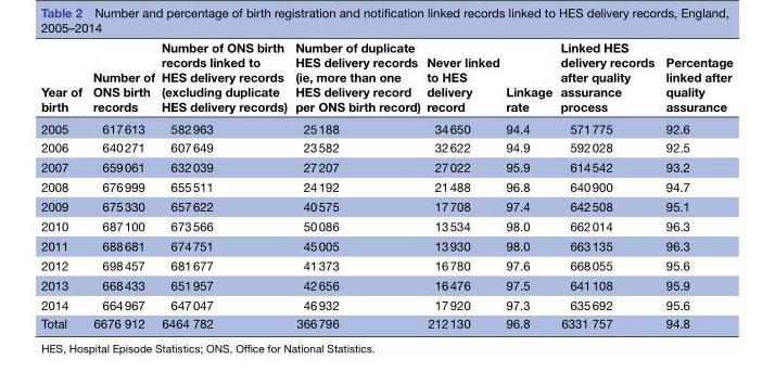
<table><thead><tr><td>Year of birth</td><td>Number of ONS birth records</td><td>Number of ONS birth records linked to HES delivery records (excluding duplicate HES delivery records)</td><td>Number of duplicate HES delivery records (ie, more than one HES delivery record per ONS birth record)</td><td>Never linked to HES delivery record</td><td>Linkage rate</td><td>Linked HES delivery records after quality assurance process</td><td>Percentage linked after quality assurance</td></tr></thead><tbody><tr><td>2005</td><td>617 613</td><td>582 963</td><td>25 188</td><td>34 650</td><td>94.4</td><td>571 775</td><td>92.6</td></tr><tr><td>2006</td><td>640 271</td><td>607 649</td><td>23 582</td><td>32 622</td><td>94.9</td><td>592 028</td><td>92.5</td></tr><tr><td>2007</td><td>659 061</td><td>632 039</td><td>27 207</td><td>27 022</td><td>95.9</td><td>614 542</td><td>93.2</td></tr><tr><td>2008</td><td>676 999</td><td>655 511</td><td>24 192</td><td>21 488</td><td>96.8</td><td>640 900</td><td>94.7</td></tr><tr><td>2009</td><td>675 330</td><td>657 622</td><td>40 575</td><td>17 708</td><td>97.4</td><td>642 508</td><td>95.1</td></tr><tr><td>2010</td><td>687 100</td><td>673 566</td><td>50 086</td><td>13 534</td><td>98.0</td><td>662 014</td><td>96.3</td></tr><tr><td>2011</td><td>688 681</td><td>674 751</td><td>45 005</td><td>13 930</td><td>98.0</td><td>663 135</td><td>96.3</td></tr><tr><td>2012</td><td>698 457</td><td>681 677</td><td>41 373</td><td>16 780</td><td>97.6</td><td>668 055</td><td>95.6</td></tr><tr><td>2013</td><td>668 433</td><td>651 957</td><td>42 656</td><td>16 476</td><td>97.5</td><td>641 108</td><td>95.9</td></tr><tr><td>2014</td><td>664 967</td><td>647 047</td><td>46 932</td><td>17 920</td><td>97.3</td><td>635 692</td><td>95.6</td></tr><tr><td>Total</td><td>6676 912</td><td>6464 782</td><td>366 796</td><td>212 130</td><td>96.8</td><td>6331 757</td><td>94.8</td></tr></tbody></table>